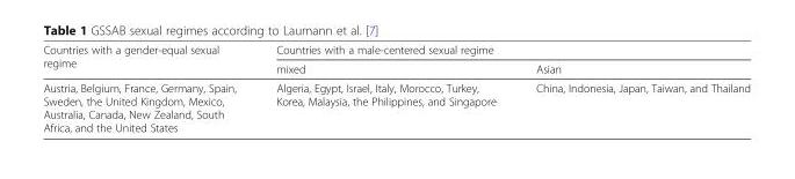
<table><thead><tr><td rowspan="2">Countries with a gender-equal sexual regime</td><td colspan="2">Countries with a male-centered sexual regime</td></tr><tr><td>mixed</td><td>Asian</td></tr></thead><tbody><tr><td>Austria, Belgium, France, Germany, Spain, Sweden, the United Kingdom, Mexico, Australia, Canada, New Zealand, South Africa, and the United States</td><td>Algeria, Egypt, Israel, Italy, Morocco, Turkey, Korea, Malaysia, the Philippines, and Singapore</td><td>China, Indonesia, Japan, Taiwan, and Thailand</td></tr></tbody></table>